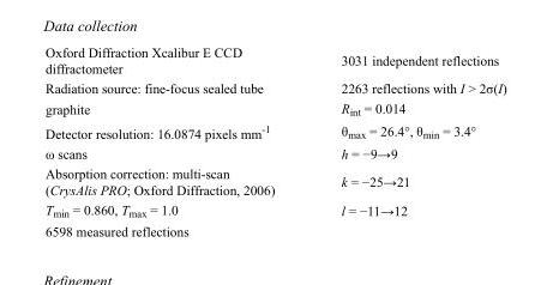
<table><tbody><tr><td>Oxford Diffraction Xcalibur E CCD diffractometer</td><td>3031 independent reflections</td></tr><tr><td>Radiation source: fine-focus sealed tube</td><td>2263 reflections with I &gt; 2σ(I)</td></tr><tr><td>graphite</td><td>R<sub>int</sub> = 0.014</td></tr><tr><td>Detector resolution: 16.0874 pixels mm<sup>-1</sup></td><td>θ<sub>max</sub> = 26.4°, θ<sub>min</sub> = 3.4°</td></tr><tr><td>ω scans</td><td>h = −9→9</td></tr><tr><td>Absorption correction: multi-scan (CrysAlis PRO; Oxford Diffraction, 2006)</td><td>k = −25→21</td></tr><tr><td>T<sub>min</sub> = 0.860, T<sub>max</sub> = 1.0</td><td>l = −11→12</td></tr><tr><td>6598 measured reflections</td><td></td></tr></tbody></table>